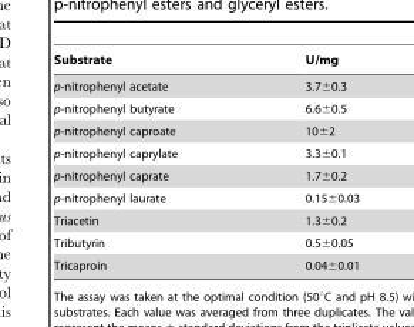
<table><thead><tr><td>Substrate</td><td>U/mg</td></tr></thead><tbody><tr><td>p-nitrophenyl acetate</td><td>3.7±0.3</td></tr><tr><td>p-nitrophenyl butyrate</td><td>6.6±0.5</td></tr><tr><td>p-nitrophenyl caproate</td><td>10±2</td></tr><tr><td>p-nitrophenyl caprylate</td><td>3.3±0.1</td></tr><tr><td>p-nitrophenyl caprate</td><td>1.7±0.2</td></tr><tr><td>p-nitrophenyl laurate</td><td>0.15±0.03</td></tr><tr><td>Triacetin</td><td>1.3±0.2</td></tr><tr><td>Tributyrin</td><td>0.5±0.05</td></tr><tr><td>Tricaproin</td><td>0.04±0.01</td></tr></tbody></table>